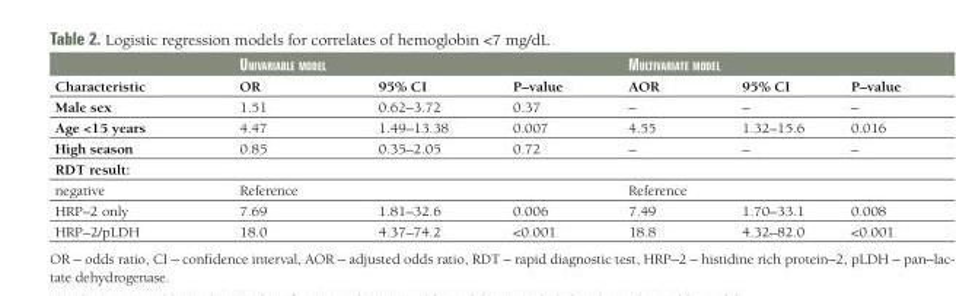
<table><thead><tr><td rowspan="2">Characteristic</td><td colspan="3">univariabLe moDeL</td><td colspan="3">muLtivariate moDeL</td></tr><tr><td>OR</td><td>95% CI</td><td>P–value</td><td>AOR</td><td>95% CI</td><td>P–value</td></tr></thead><tbody><tr><td>Male sex</td><td>1.51</td><td>0.62–3.72</td><td>0.37</td><td>–</td><td>–</td><td>–</td></tr><tr><td>Age &lt;15 years</td><td>4.47</td><td>1.49–13.38</td><td>0.007</td><td>4.55</td><td>1.32–15.6</td><td>0.016</td></tr><tr><td>High season</td><td>0.85</td><td>0.35–2.05</td><td>0.72</td><td>–</td><td>–</td><td>–</td></tr><tr><td colspan="7">RDT result:</td></tr><tr><td>negative</td><td colspan="3">Reference</td><td colspan="3">Reference</td></tr><tr><td>HRP–2 only</td><td>7.69</td><td>1.81–32.6</td><td>0.006</td><td>7.49</td><td>1.70–33.1</td><td>0.008</td></tr><tr><td>HRP–2/pLDH</td><td>18.0</td><td>4.37–74.2</td><td>&lt;0.001</td><td>18.8</td><td>4.32–82.0</td><td>&lt;0.001</td></tr></tbody></table>